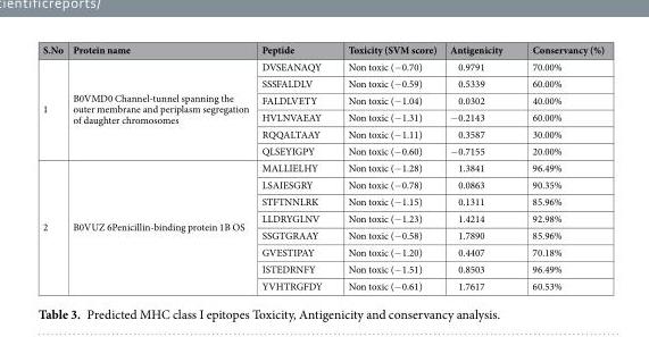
<table><thead><tr><td>S.No</td><td>Protein name</td><td>Peptide</td><td>Toxicity (SVM score)</td><td>Antigenicity</td><td>Conservancy (%)</td></tr></thead><tbody><tr><td rowspan="6">1</td><td rowspan="6">B0VMD0 Channel-tunnel spanning the outer membrane and periplasm segregation of daughter chromosomes</td><td>DVSEANAQY</td><td>Non toxic (−0.70)</td><td>0.9791</td><td>70.00%</td></tr><tr><td>SSSFALDLV</td><td>Non toxic (−0.59)</td><td>0.5339</td><td>60.00%</td></tr><tr><td>FALDLVETY</td><td>Non toxic (−1.04)</td><td>0.0302</td><td>40.00%</td></tr><tr><td>HVLNVAEAY</td><td>Non toxic (−1.31)</td><td>−0.2143</td><td>60.00%</td></tr><tr><td>RQQALTAAY</td><td>Non toxic (−1.11)</td><td>0.3587</td><td>30.00%</td></tr><tr><td>QLSEYIGPY</td><td>Non toxic (−0.60)</td><td>−0.7155</td><td>20.00%</td></tr><tr><td rowspan="8">2</td><td rowspan="8">B0VUZ 6Penicillin-binding protein 1B OS</td><td>MALLIELHY</td><td>Non toxic (−1.28)</td><td>1.3841</td><td>96.49%</td></tr><tr><td>LSAIESGRY</td><td>Non toxic (−0.78)</td><td>0.0863</td><td>90.35%</td></tr><tr><td>STFTNNLRK</td><td>Non toxic (−1.15)</td><td>0.1311</td><td>85.96%</td></tr><tr><td>LLDRYGLNV</td><td>Non toxic (−1.23)</td><td>1.4214</td><td>92.98%</td></tr><tr><td>SSGTGRAAY</td><td>Non toxic (−0.58)</td><td>1.7890</td><td>85.96%</td></tr><tr><td>GVESTIPAY</td><td>Non toxic (−1.20)</td><td>0.4407</td><td>70.18%</td></tr><tr><td>ISTEDRNFY</td><td>Non toxic (−1.51)</td><td>0.8503</td><td>96.49%</td></tr><tr><td>YVHTRGFDY</td><td>Non toxic (−0.61)</td><td>1.7617</td><td>60.53%</td></tr></tbody></table>